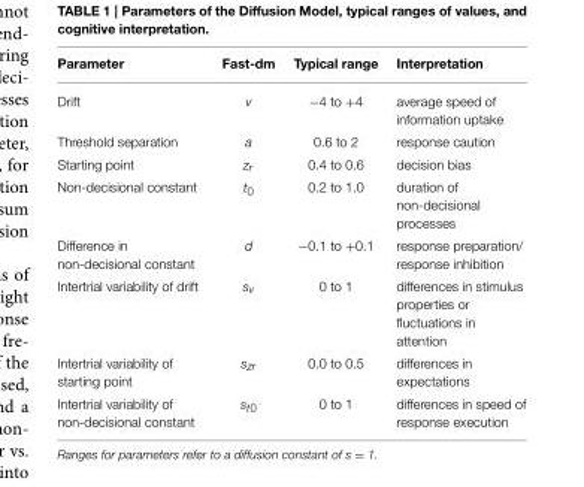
<table><thead><tr><td>Parameter</td><td>Fast-dm</td><td>Typical range</td><td>Interpretation</td></tr></thead><tbody><tr><td>Drift</td><td>v</td><td>−4 to +4</td><td>average speed of information uptake</td></tr><tr><td>Threshold separation</td><td>a</td><td>0.6 to 2</td><td>response caution</td></tr><tr><td>Starting point</td><td>z<sub>r</sub></td><td>0.4 to 0.6</td><td>decision bias</td></tr><tr><td>Non-decisional constant</td><td>t<sub>0</sub></td><td>0.2 to 1.0</td><td>duration of non-decisional processes</td></tr><tr><td>Difference in non-decisional constant</td><td>d</td><td>−0.1 to +0.1</td><td>response preparation/ response inhibition</td></tr><tr><td>Intertrial variability of drift</td><td>s<sub>v</sub></td><td>0 to 1</td><td>differences in stimulus properties or fluctuations in attention</td></tr><tr><td>Intertrial variability of starting point</td><td>s<sub>zr</sub></td><td>0.0 to 0.5</td><td>differences in expectations</td></tr><tr><td>Intertrial variability of non-decisional constant</td><td>s<sub>t0</sub></td><td>0 to 1</td><td>differences in speed of response execution</td></tr></tbody></table>